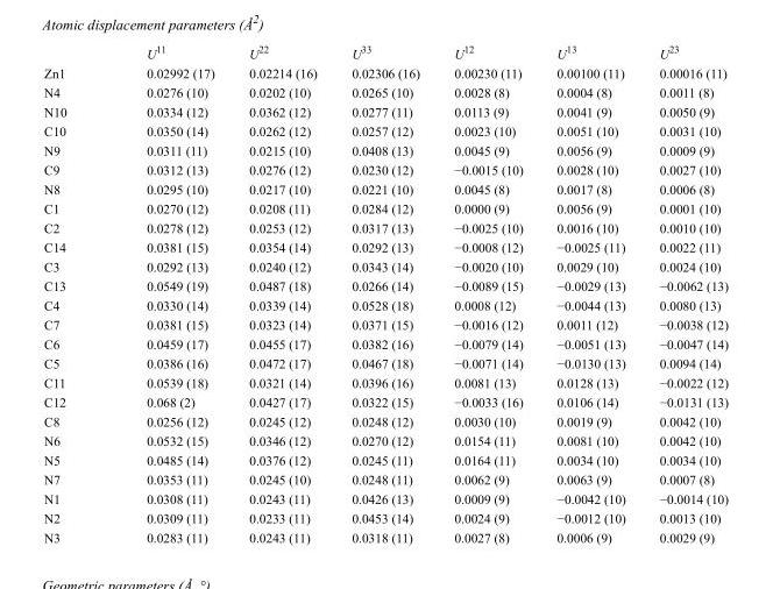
<table><thead><tr><td></td><td>U<sup>11</sup></td><td>U<sup>22</sup></td><td>U<sup>33</sup></td><td>U<sup>12</sup></td><td>U<sup>13</sup></td><td>U<sup>23</sup></td></tr></thead><tbody><tr><td>Zn1</td><td>0.02992 (17)</td><td>0.02214 (16)</td><td>0.02306 (16)</td><td>0.00230 (11)</td><td>0.00100 (11)</td><td>0.00016 (11)</td></tr><tr><td>N4</td><td>0.0276 (10)</td><td>0.0202 (10)</td><td>0.0265 (10)</td><td>0.0028 (8)</td><td>0.0004 (8)</td><td>0.0011 (8)</td></tr><tr><td>N10</td><td>0.0334 (12)</td><td>0.0362 (12)</td><td>0.0277 (11)</td><td>0.0113 (9)</td><td>0.0041 (9)</td><td>0.0050 (9)</td></tr><tr><td>C10</td><td>0.0350 (14)</td><td>0.0262 (12)</td><td>0.0257 (12)</td><td>0.0023 (10)</td><td>0.0051 (10)</td><td>0.0031 (10)</td></tr><tr><td>N9</td><td>0.0311 (11)</td><td>0.0215 (10)</td><td>0.0408 (13)</td><td>0.0045 (9)</td><td>0.0056 (9)</td><td>0.0009 (9)</td></tr><tr><td>C9</td><td>0.0312 (13)</td><td>0.0276 (12)</td><td>0.0230 (12)</td><td>−0.0015 (10)</td><td>0.0028 (10)</td><td>0.0027 (10)</td></tr><tr><td>N8</td><td>0.0295 (10)</td><td>0.0217 (10)</td><td>0.0221 (10)</td><td>0.0045 (8)</td><td>0.0017 (8)</td><td>0.0006 (8)</td></tr><tr><td>C1</td><td>0.0270 (12)</td><td>0.0208 (11)</td><td>0.0284 (12)</td><td>0.0000 (9)</td><td>0.0056 (9)</td><td>0.0001 (10)</td></tr><tr><td>C2</td><td>0.0278 (12)</td><td>0.0253 (12)</td><td>0.0317 (13)</td><td>−0.0025 (10)</td><td>0.0016 (10)</td><td>0.0010 (10)</td></tr><tr><td>C14</td><td>0.0381 (15)</td><td>0.0354 (14)</td><td>0.0292 (13)</td><td>−0.0008 (12)</td><td>−0.0025 (11)</td><td>0.0022 (11)</td></tr><tr><td>C3</td><td>0.0292 (13)</td><td>0.0240 (12)</td><td>0.0343 (14)</td><td>−0.0020 (10)</td><td>0.0029 (10)</td><td>0.0024 (10)</td></tr><tr><td>C13</td><td>0.0549 (19)</td><td>0.0487 (18)</td><td>0.0266 (14)</td><td>−0.0089 (15)</td><td>−0.0029 (13)</td><td>−0.0062 (13)</td></tr><tr><td>C4</td><td>0.0330 (14)</td><td>0.0339 (14)</td><td>0.0528 (18)</td><td>0.0008 (12)</td><td>−0.0044 (13)</td><td>0.0080 (13)</td></tr><tr><td>C7</td><td>0.0381 (15)</td><td>0.0323 (14)</td><td>0.0371 (15)</td><td>−0.0016 (12)</td><td>0.0011 (12)</td><td>−0.0038 (12)</td></tr><tr><td>C6</td><td>0.0459 (17)</td><td>0.0455 (17)</td><td>0.0382 (16)</td><td>−0.0079 (14)</td><td>−0.0051 (13)</td><td>−0.0047 (14)</td></tr><tr><td>C5</td><td>0.0386 (16)</td><td>0.0472 (17)</td><td>0.0467 (18)</td><td>−0.0071 (14)</td><td>−0.0130 (13)</td><td>0.0094 (14)</td></tr><tr><td>C11</td><td>0.0539 (18)</td><td>0.0321 (14)</td><td>0.0396 (16)</td><td>0.0081 (13)</td><td>0.0128 (13)</td><td>−0.0022 (12)</td></tr><tr><td>C12</td><td>0.068 (2)</td><td>0.0427 (17)</td><td>0.0322 (15)</td><td>−0.0033 (16)</td><td>0.0106 (14)</td><td>−0.0131 (13)</td></tr><tr><td>C8</td><td>0.0256 (12)</td><td>0.0245 (12)</td><td>0.0248 (12)</td><td>0.0030 (10)</td><td>0.0019 (9)</td><td>0.0042 (10)</td></tr><tr><td>N6</td><td>0.0532 (15)</td><td>0.0346 (12)</td><td>0.0270 (12)</td><td>0.0154 (11)</td><td>0.0081 (10)</td><td>0.0042 (10)</td></tr><tr><td>N5</td><td>0.0485 (14)</td><td>0.0376 (12)</td><td>0.0245 (11)</td><td>0.0164 (11)</td><td>0.0034 (10)</td><td>0.0034 (10)</td></tr><tr><td>N7</td><td>0.0353 (11)</td><td>0.0245 (10)</td><td>0.0248 (11)</td><td>0.0062 (9)</td><td>0.0063 (9)</td><td>0.0007 (8)</td></tr><tr><td>N1</td><td>0.0308 (11)</td><td>0.0243 (11)</td><td>0.0426 (13)</td><td>0.0009 (9)</td><td>−0.0042 (10)</td><td>−0.0014 (10)</td></tr><tr><td>N2</td><td>0.0309 (11)</td><td>0.0233 (11)</td><td>0.0453 (14)</td><td>0.0024 (9)</td><td>−0.0012 (10)</td><td>0.0013 (10)</td></tr><tr><td>N3</td><td>0.0283 (11)</td><td>0.0243 (11)</td><td>0.0318 (11)</td><td>0.0027 (8)</td><td>0.0006 (9)</td><td>0.0029 (9)</td></tr></tbody></table>